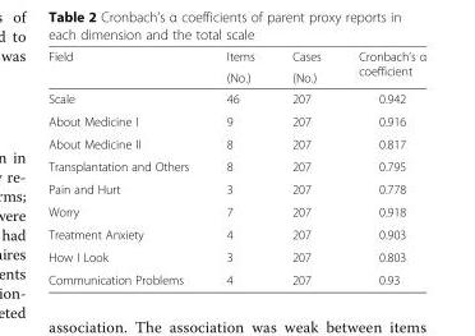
<table><thead><tr><td rowspan="2">Field</td><td rowspan="2">Items (No.)</td><td rowspan="2">Cases (No.)</td><td rowspan="2">Cronbach’s α coefficient</td></tr><tr></tr></thead><tbody><tr><td>Scale</td><td>46</td><td>207</td><td>0.942</td></tr><tr><td>About Medicine I</td><td>9</td><td>207</td><td>0.916</td></tr><tr><td>About Medicine II</td><td>8</td><td>207</td><td>0.817</td></tr><tr><td>Transplantation and Others</td><td>8</td><td>207</td><td>0.795</td></tr><tr><td>Pain and Hurt</td><td>3</td><td>207</td><td>0.778</td></tr><tr><td>Worry</td><td>7</td><td>207</td><td>0.918</td></tr><tr><td>Treatment Anxiety</td><td>4</td><td>207</td><td>0.903</td></tr><tr><td>How I Look</td><td>3</td><td>207</td><td>0.803</td></tr><tr><td>Communication Problems</td><td>4</td><td>207</td><td>0.93</td></tr></tbody></table>